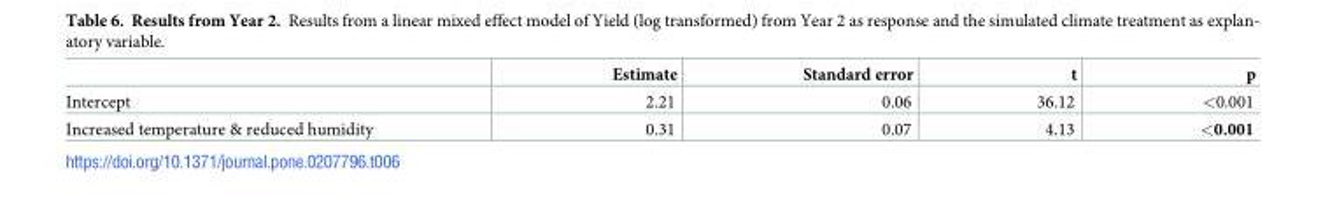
<table><thead><tr><td></td><td>Estimate</td><td>Standard error</td><td>t</td><td>p</td></tr></thead><tbody><tr><td>Intercept</td><td>2.21</td><td>0.06</td><td>36.12</td><td>&lt;0.001</td></tr><tr><td>Increased temperature &amp; reduced humidity</td><td>0.31</td><td>0.07</td><td>4.13</td><td>&lt;0.001</td></tr></tbody></table>